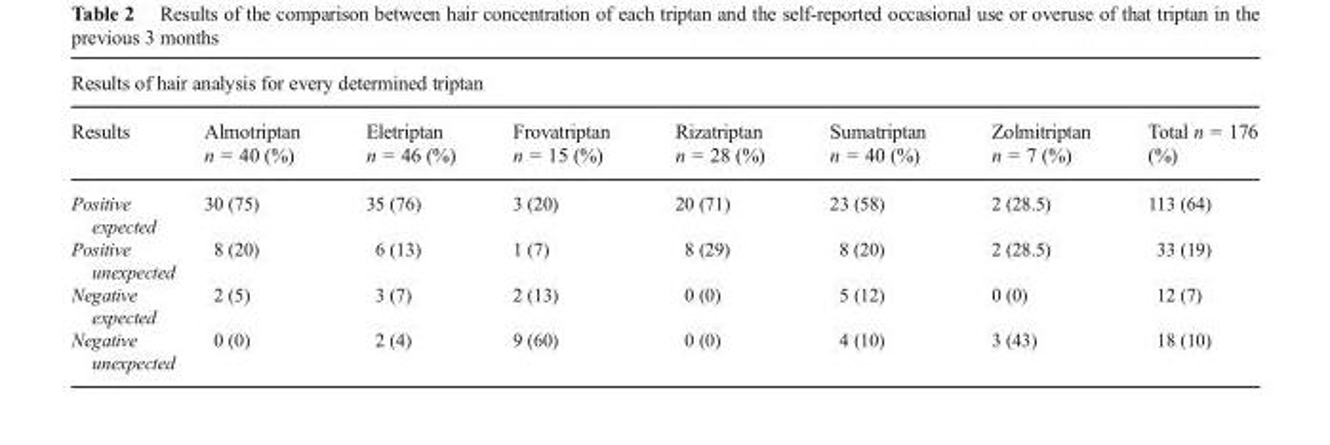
<table><thead><tr><td colspan="8">Results of hair analysis for every determined triptan</td></tr><tr><td>Results</td><td>Almotriptan n = 40 (%)</td><td>Eletriptan n = 46 (%)</td><td>Frovatriptan n = 15 (%)</td><td>Rizatriptan n = 28 (%)</td><td>Sumatriptan n = 40 (%)</td><td>Zolmitriptan n = 7 (%)</td><td>Total n = 176 (%)</td></tr></thead><tbody><tr><td>Positive expected</td><td>30 (75)</td><td>35 (76)</td><td>3 (20)</td><td>20 (71)</td><td>23 (58)</td><td>2 (28.5)</td><td>113 (64)</td></tr><tr><td>Positive unexpected</td><td>8 (20)</td><td>6 (13)</td><td>1 (7)</td><td>8 (29)</td><td>8 (20)</td><td>2 (28.5)</td><td>33 (19)</td></tr><tr><td>Negative expected</td><td>2 (5)</td><td>3 (7)</td><td>2 (13)</td><td>0 (0)</td><td>5 (12)</td><td>0 (0)</td><td>12 (7)</td></tr><tr><td>Negative unexpected</td><td>0 (0)</td><td>2 (4)</td><td>9 (60)</td><td>0 (0)</td><td>4 (10)</td><td>3 (43)</td><td>18 (10)</td></tr></tbody></table>